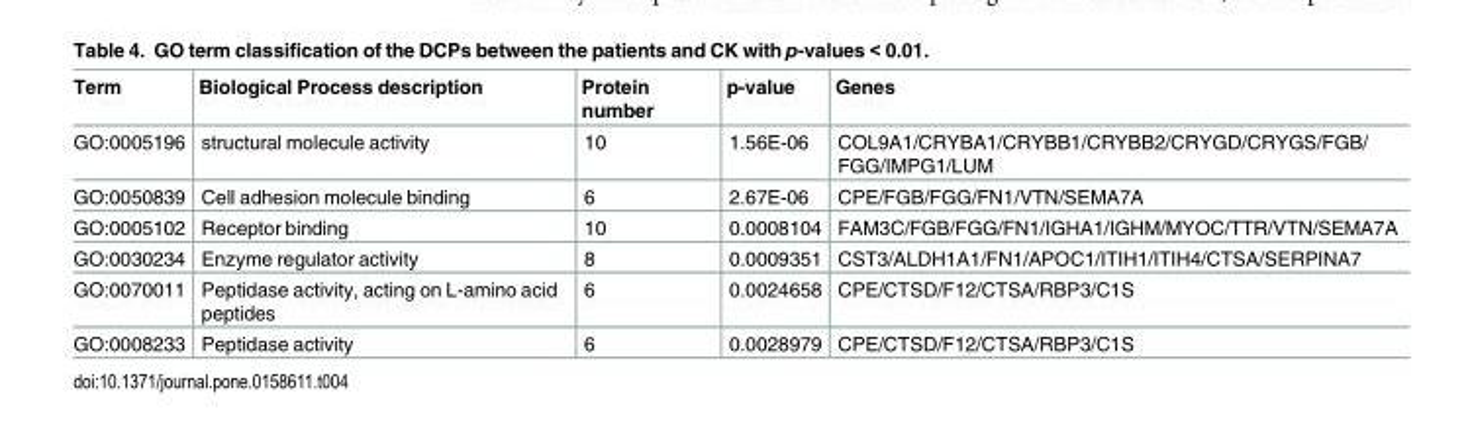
<table><thead><tr><td>Term</td><td>Biological Process description</td><td>Protein number</td><td>p-value</td><td>Genes</td></tr></thead><tbody><tr><td>GO:0005196</td><td>structural molecule activity</td><td>10</td><td>1.56E-06</td><td>COL9A1/CRYBA1/CRYBB1/CRYBB2/CRYGD/CRYGS/FGB/ FGG/IMPG1/LUM</td></tr><tr><td>GO:0050839</td><td>Cell adhesion molecule binding</td><td>6</td><td>2.67E-06</td><td>CPE/FGB/FGG/FN1/VTN/SEMA7A</td></tr><tr><td>GO:0005102</td><td>Receptor binding</td><td>10</td><td>0.0008104</td><td>FAM3C/FGB/FGG/FN1/IGHA1/IGHM/MYOC/TTR/VTN/SEMA7A</td></tr><tr><td>GO:0030234</td><td>Enzyme regulator activity</td><td>8</td><td>0.0009351</td><td>CST3/ALDH1A1/FN1/APOC1/ITIH1/ITIH4/CTSA/SERPINA7</td></tr><tr><td>GO:0070011</td><td>Peptidase activity, acting on L-amino acid peptides</td><td>6</td><td>0.0024658</td><td>CPE/CTSD/F12/CTSA/RBP3/C1S</td></tr><tr><td>GO:0008233</td><td>Peptidase activity</td><td>6</td><td>0.0028979</td><td>CPE/CTSD/F12/CTSA/RBP3/C1S</td></tr></tbody></table>